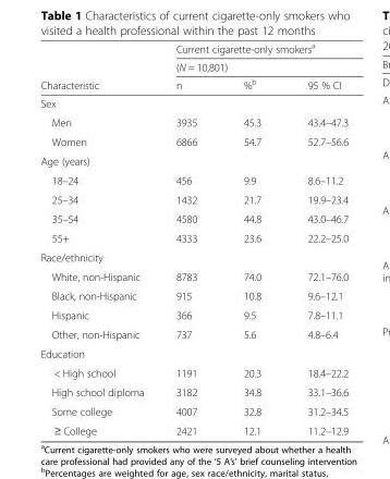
<table><thead><tr><td rowspan="3">Characteristic</td><td rowspan="2" colspan="3">Current cigarette-only smokers<sup>a</sup> (N = 10,801)</td></tr><tr></tr><tr><td>n</td><td>%<sup>b</sup></td><td>95 % CI</td></tr></thead><tbody><tr><td colspan="4">Sex</td></tr><tr><td>Men</td><td>3935</td><td>45.3</td><td>43.4–47.3</td></tr><tr><td>Women</td><td>6866</td><td>54.7</td><td>52.7–56.6</td></tr><tr><td colspan="4">Age (years)</td></tr><tr><td>18–24</td><td>456</td><td>9.9</td><td>8.6–11.2</td></tr><tr><td>25–34</td><td>1432</td><td>21.7</td><td>19.9–23.4</td></tr><tr><td>35–54</td><td>4580</td><td>44.8</td><td>43.0–46.7</td></tr><tr><td>55+</td><td>4333</td><td>23.6</td><td>22.2–25.0</td></tr><tr><td colspan="4">Race/ethnicity</td></tr><tr><td>White, non-Hispanic</td><td>8783</td><td>74.0</td><td>72.1–76.0</td></tr><tr><td>Black, non-Hispanic</td><td>915</td><td>10.8</td><td>9.6–12.1</td></tr><tr><td>Hispanic</td><td>366</td><td>9.5</td><td>7.8–11.1</td></tr><tr><td>Other, non-Hispanic</td><td>737</td><td>5.6</td><td>4.8–6.4</td></tr><tr><td colspan="4">Education</td></tr><tr><td>&lt; High school</td><td>1191</td><td>20.3</td><td>18.4–22.2</td></tr><tr><td>High school diploma</td><td>3182</td><td>34.8</td><td>33.1–36.6</td></tr><tr><td>Some college</td><td>4007</td><td>32.8</td><td>31.2–34.5</td></tr><tr><td>≥ College</td><td>2421</td><td>12.1</td><td>11.2–12.9</td></tr></tbody></table>